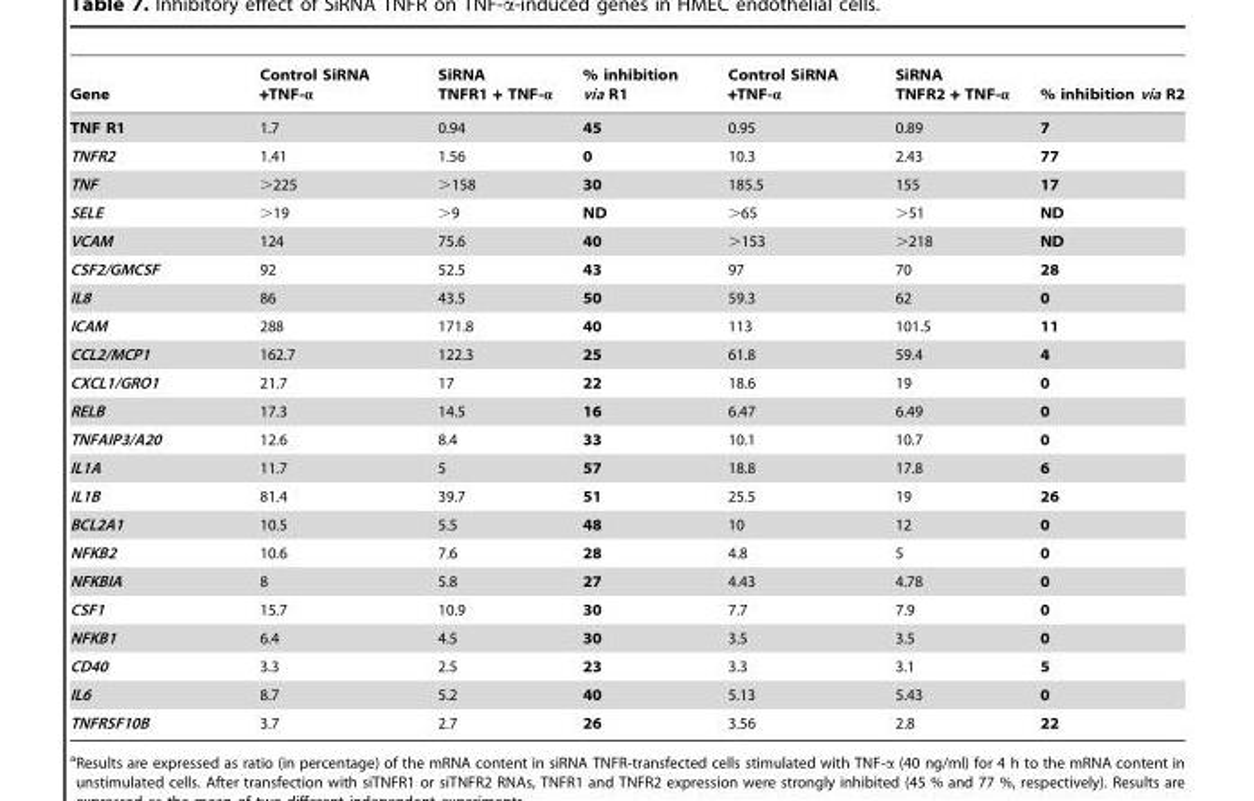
<table><thead><tr><td>Gene</td><td>Control SiRNA +TNF-α</td><td>SiRNA TNFR1 + TNF-α</td><td>% inhibition via R1</td><td>Control SiRNA +TNF-α</td><td>SiRNA TNFR2 + TNF-α</td><td>% inhibition via R2</td></tr></thead><tbody><tr><td>TNF R1</td><td>1.7</td><td>0.94</td><td>45</td><td>0.95</td><td>0.89</td><td>7</td></tr><tr><td>TNFR2</td><td>1.41</td><td>1.56</td><td>0</td><td>10.3</td><td>2.43</td><td>77</td></tr><tr><td>TNF</td><td>&gt;225</td><td>&gt;158</td><td>30</td><td>185.5</td><td>155</td><td>17</td></tr><tr><td>SELE</td><td>&gt;19</td><td>&gt;9</td><td>ND</td><td>&gt;65</td><td>&gt;51</td><td>ND</td></tr><tr><td>VCAM</td><td>124</td><td>75.6</td><td>40</td><td>&gt;153</td><td>&gt;218</td><td>ND</td></tr><tr><td>CSF2/GMCSF</td><td>92</td><td>52.5</td><td>43</td><td>97</td><td>70</td><td>28</td></tr><tr><td>IL8</td><td>86</td><td>43.5</td><td>50</td><td>59.3</td><td>62</td><td>0</td></tr><tr><td>ICAM</td><td>288</td><td>171.8</td><td>40</td><td>113</td><td>101.5</td><td>11</td></tr><tr><td>CCL2/MCP1</td><td>162.7</td><td>122.3</td><td>25</td><td>61.8</td><td>59.4</td><td>4</td></tr><tr><td>CXCL1/GRO1</td><td>21.7</td><td>17</td><td>22</td><td>18.6</td><td>19</td><td>0</td></tr><tr><td>RELB</td><td>17.3</td><td>14.5</td><td>16</td><td>6.47</td><td>6.49</td><td>0</td></tr><tr><td>TNFAIP3/A20</td><td>12.6</td><td>8.4</td><td>33</td><td>10.1</td><td>10.7</td><td>0</td></tr><tr><td>IL1A</td><td>11.7</td><td>5</td><td>57</td><td>18.8</td><td>17.8</td><td>6</td></tr><tr><td>IL1B</td><td>81.4</td><td>39.7</td><td>51</td><td>25.5</td><td>19</td><td>26</td></tr><tr><td>BCL2A1</td><td>10.5</td><td>5.5</td><td>48</td><td>10</td><td>12</td><td>0</td></tr><tr><td>NFKB2</td><td>10.6</td><td>7.6</td><td>28</td><td>4.8</td><td>5</td><td>0</td></tr><tr><td>NFKBIA</td><td>8</td><td>5.8</td><td>27</td><td>4.43</td><td>4.78</td><td>0</td></tr><tr><td>CSF1</td><td>15.7</td><td>10.9</td><td>30</td><td>7.7</td><td>7.9</td><td>0</td></tr><tr><td>NFKB1</td><td>6.4</td><td>4.5</td><td>30</td><td>3.5</td><td>3.5</td><td>0</td></tr><tr><td>CD40</td><td>3.3</td><td>2.5</td><td>23</td><td>3.3</td><td>3.1</td><td>5</td></tr><tr><td>IL6</td><td>8.7</td><td>5.2</td><td>40</td><td>5.13</td><td>5.43</td><td>0</td></tr><tr><td>TNFRSF10B</td><td>3.7</td><td>2.7</td><td>26</td><td>3.56</td><td>2.8</td><td>22</td></tr></tbody></table>